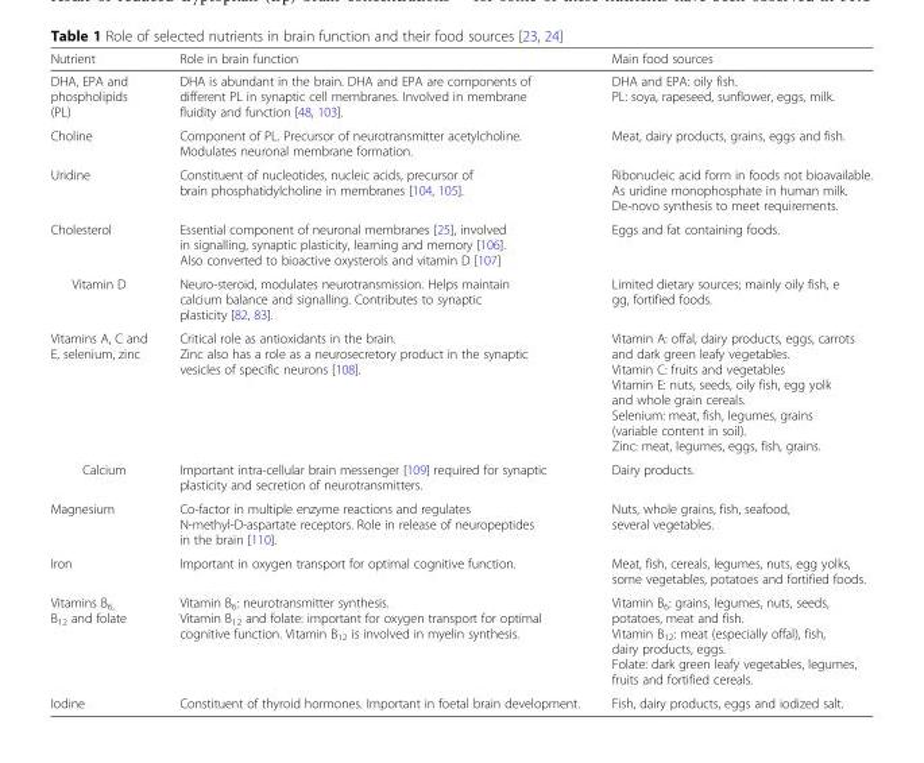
<table><thead><tr><td>Nutrient</td><td>Role in brain function</td><td>Main food sources</td></tr></thead><tbody><tr><td>DHA, EPA and phospholipids (PL)</td><td>DHA is abundant in the brain. DHA and EPA are components of different PL in synaptic cell membranes. Involved in membrane fluidity and function [48, 103].</td><td>DHA and EPA: oily fish. PL: soya, rapeseed, sunflower, eggs, milk.</td></tr><tr><td>Choline</td><td>Component of PL. Precursor of neurotransmitter acetylcholine. Modulates neuronal membrane formation.</td><td>Meat, dairy products, grains, eggs and fish.</td></tr><tr><td>Uridine</td><td>Constituent of nucleotides, nucleic acids, precursor of brain phosphatidylcholine in membranes [104, 105].</td><td>Ribonucleic acid form in foods not bioavailable. As uridine monophosphate in human milk. De-novo synthesis to meet requirements.</td></tr><tr><td>Cholesterol</td><td>Essential component of neuronal membranes [25], involved in signalling, synaptic plasticity, learning and memory [106]. Also converted to bioactive oxysterols and vitamin D [107]</td><td>Eggs and fat containing foods.</td></tr><tr><td>Vitamin D</td><td>Neuro-steroid, modulates neurotransmission. Helps maintain calcium balance and signalling. Contributes to synaptic plasticity [82, 83].</td><td>Limited dietary sources; mainly oily fish, e gg, fortified foods.</td></tr><tr><td>Vitamins A, C and E, selenium, zinc</td><td>Critical role as antioxidants in the brain. Zinc also has a role as a neurosecretory product in the synaptic vesicles of specific neurons [108].</td><td>Vitamin A: offal, dairy products, eggs, carrots and dark green leafy vegetables. Vitamin C: fruits and vegetables Vitamin E: nuts, seeds, oily fish, egg yolk and whole grain cereals. Selenium: meat, fish, legumes, grains (variable content in soil). Zinc: meat, legumes, eggs, fish, grains.</td></tr><tr><td>Calcium</td><td>Important intra-cellular brain messenger [109] required for synaptic plasticity and secretion of neurotransmitters.</td><td>Dairy products.</td></tr><tr><td>Magnesium</td><td>Co-factor in multiple enzyme reactions and regulates N-methyl-D-aspartate receptors. Role in release of neuropeptides in the brain [110].</td><td>Nuts, whole grains, fish, seafood, several vegetables.</td></tr><tr><td>Iron</td><td>Important in oxygen transport for optimal cognitive function.</td><td>Meat, fish, cereals, legumes, nuts, egg yolks, some vegetables, potatoes and fortified foods.</td></tr><tr><td>Vitamins B<sub>6,</sub> B<sub>12</sub> and folate</td><td>Vitamin B<sub>6</sub>: neurotransmitter synthesis. Vitamin B<sub>12</sub> and folate: important for oxygen transport for optimal cognitive function. Vitamin B<sub>12</sub> is involved in myelin synthesis.</td><td>Vitamin B<sub>6</sub>: grains, legumes, nuts, seeds, potatoes, meat and fish. Vitamin B<sub>12</sub>: meat (especially offal), fish, dairy products, eggs. Folate: dark green leafy vegetables, legumes, fruits and fortified cereals.</td></tr><tr><td>Iodine</td><td>Constituent of thyroid hormones. Important in foetal brain development.</td><td>Fish, dairy products, eggs and iodized salt.</td></tr></tbody></table>